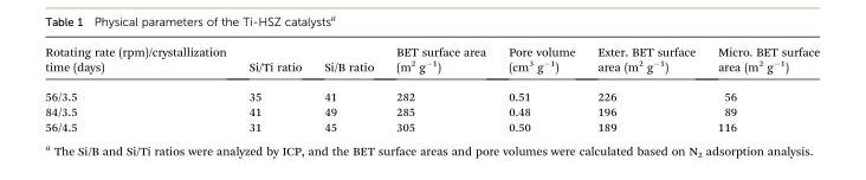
<table><thead><tr><td>Rotating rate (rpm)/crystallization time (days)</td><td>Si/Ti ratio</td><td>Si/B ratio</td><td>BET surface area (m<sup>2</sup> g<sup>–1</sup>)</td><td>Pore volume (cm<sup>3</sup> g<sup>–1</sup>)</td><td>Exter. BET surface area (m<sup>2</sup> g<sup>–1</sup>)</td><td>Micro. BET surface area (m<sup>2</sup> g<sup>–1</sup>)</td></tr></thead><tbody><tr><td>56/3.5</td><td>35</td><td>41</td><td>282</td><td>0.51</td><td>226</td><td>56</td></tr><tr><td>84/3.5</td><td>41</td><td>49</td><td>285</td><td>0.48</td><td>196</td><td>89</td></tr><tr><td>56/4.5</td><td>31</td><td>45</td><td>305</td><td>0.50</td><td>189</td><td>116</td></tr></tbody></table>